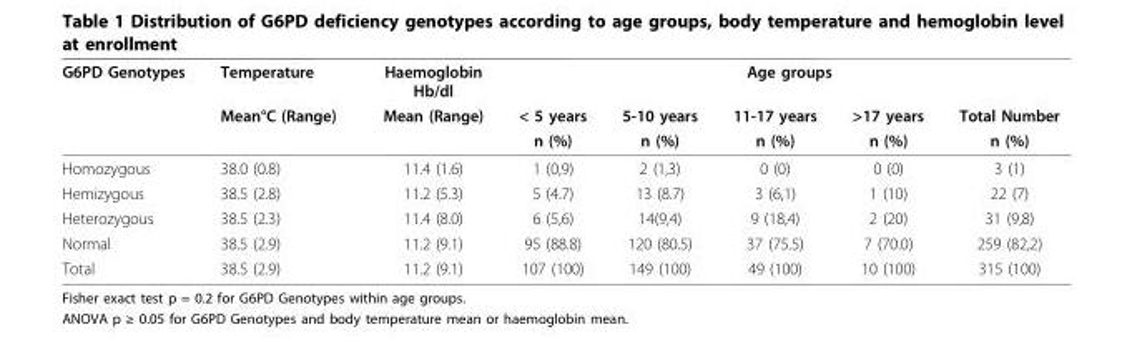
<table><thead><tr><td rowspan="3">G6PD Genotypes</td><td rowspan="3">Temperature Mean°C (Range)</td><td rowspan="3">Haemoglobin Hb/dl Mean (Range)</td><td colspan="5">Age groups</td></tr><tr><td rowspan="2">&lt; 5 years n (%)</td><td rowspan="2">5-10 years n (%)</td><td rowspan="2">11-17 years n (%)</td><td rowspan="2">&gt;17 years n (%)</td><td rowspan="2">Total Number n (%)</td></tr><tr></tr></thead><tbody><tr><td>Homozygous</td><td>38.0 (0.8)</td><td>11.4 (1.6)</td><td>1 (0,9)</td><td>2 (1,3)</td><td>0 (0)</td><td>0 (0)</td><td>3 (1)</td></tr><tr><td>Hemizygous</td><td>38.5 (2.8)</td><td>11.2 (5.3)</td><td>5 (4.7)</td><td>13 (8.7)</td><td>3 (6,1)</td><td>1 (10)</td><td>22 (7)</td></tr><tr><td>Heterozygous</td><td>38.5 (2.3)</td><td>11.4 (8.0)</td><td>6 (5,6)</td><td>14(9,4)</td><td>9 (18,4)</td><td>2 (20)</td><td>31 (9,8)</td></tr><tr><td>Normal</td><td>38.5 (2.9)</td><td>11.2 (9.1)</td><td>95 (88.8)</td><td>120 (80.5)</td><td>37 (75.5)</td><td>7 (70.0)</td><td>259 (82,2)</td></tr><tr><td>Total</td><td>38.5 (2.9)</td><td>11.2 (9.1)</td><td>107 (100)</td><td>149 (100)</td><td>49 (100)</td><td>10 (100)</td><td>315 (100)</td></tr></tbody></table>